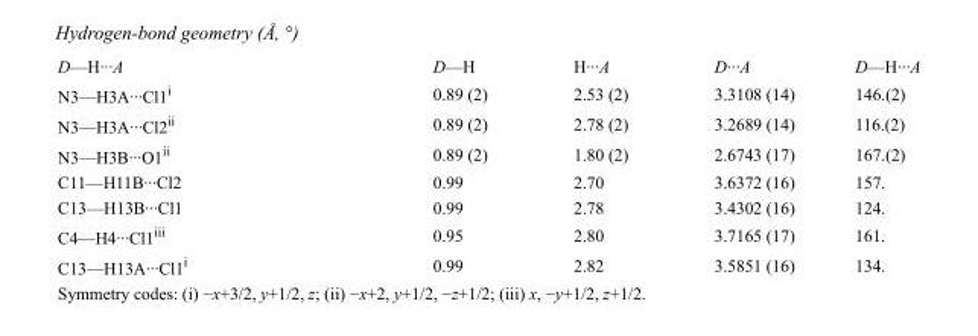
<table><tbody><tr><td>D—H···A</td><td>D—H</td><td>H···A</td><td>D···A</td><td>D—H···A</td></tr><tr><td>N3—H3A···Cl1<sup>i</sup></td><td>0.89 (2)</td><td>2.53 (2)</td><td>3.3108 (14)</td><td>146.(2)</td></tr><tr><td>N3—H3A···Cl2<sup>ii</sup></td><td>0.89 (2)</td><td>2.78 (2)</td><td>3.2689 (14)</td><td>116.(2)</td></tr><tr><td>N3—H3B···O1<sup>ii</sup></td><td>0.89 (2)</td><td>1.80 (2)</td><td>2.6743 (17)</td><td>167.(2)</td></tr><tr><td>C11—H11B···Cl2</td><td>0.99</td><td>2.70</td><td>3.6372 (16)</td><td>157.</td></tr><tr><td>C13—H13B···Cl1</td><td>0.99</td><td>2.78</td><td>3.4302 (16)</td><td>124.</td></tr><tr><td>C4—H4···Cl1<sup>iii</sup></td><td>0.95</td><td>2.80</td><td>3.7165 (17)</td><td>161.</td></tr><tr><td>C13—H13A···Cl1<sup>i</sup></td><td>0.99</td><td>2.82</td><td>3.5851 (16)</td><td>134.</td></tr></tbody></table>